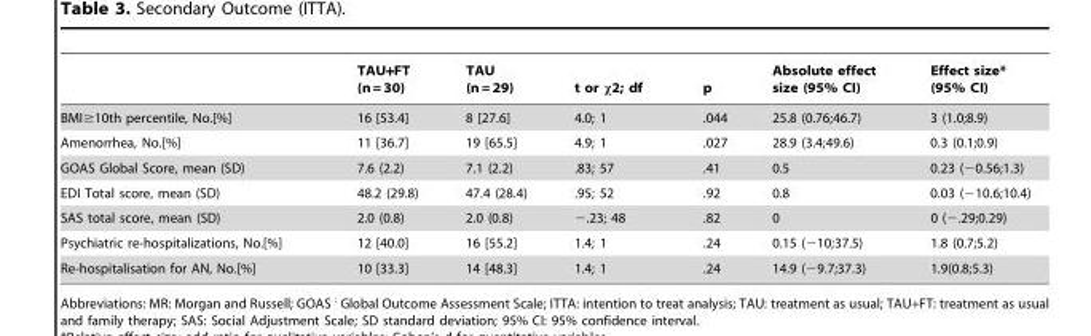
<table><thead><tr><td></td><td>TAU+FT (n = 30)</td><td>TAU (n = 29)</td><td>t or χ2; df</td><td>p</td><td>Absolute effect size (95% CI)</td><td>Effect size* (95% CI)</td></tr></thead><tbody><tr><td>BMI≥10th percentile, No.[%]</td><td>16 [53.4]</td><td>8 [27.6]</td><td>4.0; 1</td><td>.044</td><td>25.8 (0.76;46.7)</td><td>3 (1.0;8.9)</td></tr><tr><td>Amenorrhea, No.[%]</td><td>11 [36.7]</td><td>19 [65.5]</td><td>4.9; 1</td><td>.027</td><td>28.9 (3.4;49.6)</td><td>0.3 (0.1;0.9)</td></tr><tr><td>GOAS Global Score, mean (SD)</td><td>7.6 (2.2)</td><td>7.1 (2.2)</td><td>.83; 57</td><td>.41</td><td>0.5</td><td>0.23 (−0.56;1.3)</td></tr><tr><td>EDI Total score, mean (SD)</td><td>48.2 (29.8)</td><td>47.4 (28.4)</td><td>.95; 52</td><td>.92</td><td>0.8</td><td>0.03 (−10.6;10.4)</td></tr><tr><td>SAS total score, mean (SD)</td><td>2.0 (0.8)</td><td>2.0 (0.8)</td><td>−.23; 48</td><td>.82</td><td>0</td><td>0 (−.29;0.29)</td></tr><tr><td>Psychiatric re-hospitalizations, No.[%]</td><td>12 [40.0]</td><td>16 [55.2]</td><td>1.4; 1</td><td>.24</td><td>0.15 (−10;37.5)</td><td>1.8 (0.7;5.2)</td></tr><tr><td>Re-hospitalisation for AN, No.[%]</td><td>10 [33.3]</td><td>14 [48.3]</td><td>1.4; 1</td><td>.24</td><td>14.9 (−9.7;37.3)</td><td>1.9(0.8;5.3)</td></tr></tbody></table>